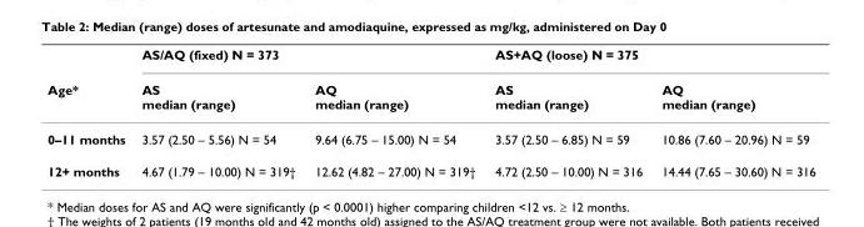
<table><thead><tr><td rowspan="2">Age*</td><td colspan="2">AS/AQ (fixed) N = 373</td><td colspan="2">AS+AQ (loose) N = 375</td></tr><tr><td>AS median (range)</td><td>AQ median (range)</td><td>AS median (range)</td><td>AQ median (range)</td></tr></thead><tbody><tr><td>0–11 months</td><td>3.57 (2.50 – 5.56) N = 54</td><td>9.64 (6.75 – 15.00) N = 54</td><td>3.57 (2.50 – 6.85) N = 59</td><td>10.86 (7.60 – 20.96) N = 59</td></tr><tr><td>12+ months</td><td>4.67 (1.79 – 10.00) N = 319†</td><td>12.62 (4.82 – 27.00) N = 319†</td><td>4.72 (2.50 – 10.00) N = 316</td><td>14.44 (7.65 – 30.60) N = 316</td></tr></tbody></table>